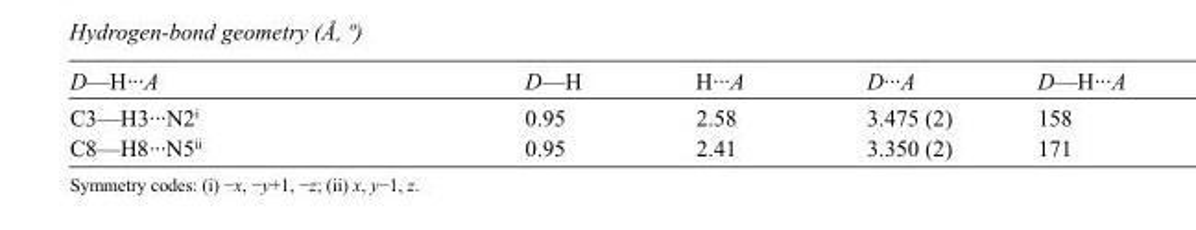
<table><tbody><tr><td>D—H···A</td><td>D—H</td><td>H···A</td><td>D···A</td><td>D—H···A</td></tr><tr><td>C3—H3···N2<sup>i</sup></td><td>0.95</td><td>2.58</td><td>3.475 (2)</td><td>158</td></tr><tr><td>C8—H8···N5<sup>ii</sup></td><td>0.95</td><td>2.41</td><td>3.350 (2)</td><td>171</td></tr></tbody></table>